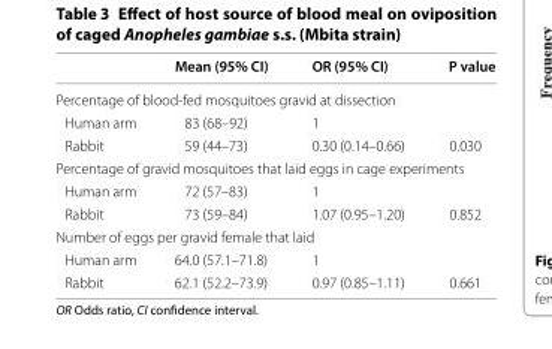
<table><thead><tr><td></td><td>Mean (95% CI)</td><td>OR (95% CI)</td><td>P value</td></tr></thead><tbody><tr><td colspan="4">Percentage of blood-fed mosquitoes gravid at dissection</td></tr><tr><td>Human arm</td><td>83 (68–92)</td><td>1</td><td></td></tr><tr><td>Rabbit</td><td>59 (44–73)</td><td>0.30 (0.14–0.66)</td><td>0.030</td></tr><tr><td colspan="4">Percentage of gravid mosquitoes that laid eggs in cage experiments</td></tr><tr><td>Human arm</td><td>72 (57–83)</td><td>1</td><td></td></tr><tr><td>Rabbit</td><td>73 (59–84)</td><td>1.07 (0.95–1.20)</td><td>0.852</td></tr><tr><td colspan="4">Number of eggs per gravid female that laid</td></tr><tr><td>Human arm</td><td>64.0 (57.1–71.8)</td><td>1</td><td></td></tr><tr><td>Rabbit</td><td>62.1 (52.2–73.9)</td><td>0.97 (0.85–1.11)</td><td>0.661</td></tr></tbody></table>